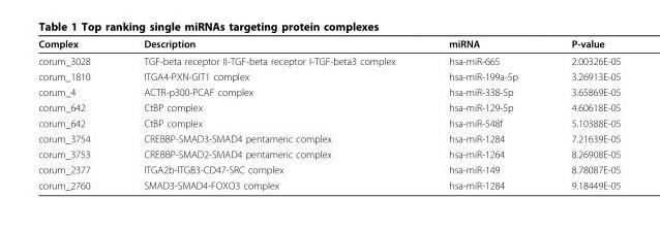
<table><thead><tr><td>Complex</td><td>Description</td><td>miRNA</td><td>P-value</td></tr></thead><tbody><tr><td>corum_3028</td><td>TGF-beta receptor II-TGF-beta receptor I-TGF-beta3 complex</td><td>hsa-miR-665</td><td>2.00326E-05</td></tr><tr><td>corum_1810</td><td>ITGA4-PXN-GIT1 complex</td><td>hsa-miR-199a-5p</td><td>3.26913E-05</td></tr><tr><td>corum_4</td><td>ACTR-p300-PCAF complex</td><td>hsa-miR-338-5p</td><td>3.65869E-05</td></tr><tr><td>corum_642</td><td>CtBP complex</td><td>hsa-miR-129-5p</td><td>4.60618E-05</td></tr><tr><td>corum_642</td><td>CtBP complex</td><td>hsa-miR-548f</td><td>5.10388E-05</td></tr><tr><td>corum_3754</td><td>CREBBP-SMAD3-SMAD4 pentameric complex</td><td>hsa-miR-1284</td><td>7.21639E-05</td></tr><tr><td>corum_3753</td><td>CREBBP-SMAD2-SMAD4 pentameric complex</td><td>hsa-miR-1264</td><td>8.26908E-05</td></tr><tr><td>corum_2377</td><td>ITGA2b-ITGB3-CD47-SRC complex</td><td>hsa-miR-149</td><td>8.78087E-05</td></tr><tr><td>corum_2760</td><td>SMAD3-SMAD4-FOXO3 complex</td><td>hsa-miR-1284</td><td>9.18449E-05</td></tr></tbody></table>